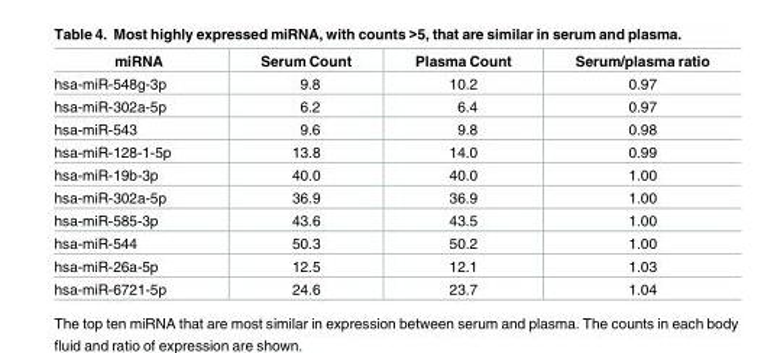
<table><thead><tr><td>miRNA</td><td>Serum Count</td><td>Plasma Count</td><td>Serum/plasma ratio</td></tr></thead><tbody><tr><td>hsa-miR-548g-3p</td><td>9.8</td><td>10.2</td><td>0.97</td></tr><tr><td>hsa-miR-302a-5p</td><td>6.2</td><td>6.4</td><td>0.97</td></tr><tr><td>hsa-miR-543</td><td>9.6</td><td>9.8</td><td>0.98</td></tr><tr><td>hsa-miR-128-1-5p</td><td>13.8</td><td>14.0</td><td>0.99</td></tr><tr><td>hsa-miR-19b-3p</td><td>40.0</td><td>40.0</td><td>1.00</td></tr><tr><td>hsa-miR-302a-5p</td><td>36.9</td><td>36.9</td><td>1.00</td></tr><tr><td>hsa-miR-585-3p</td><td>43.6</td><td>43.5</td><td>1.00</td></tr><tr><td>hsa-miR-544</td><td>50.3</td><td>50.2</td><td>1.00</td></tr><tr><td>hsa-miR-26a-5p</td><td>12.5</td><td>12.1</td><td>1.03</td></tr><tr><td>hsa-miR-6721-5p</td><td>24.6</td><td>23.7</td><td>1.04</td></tr></tbody></table>